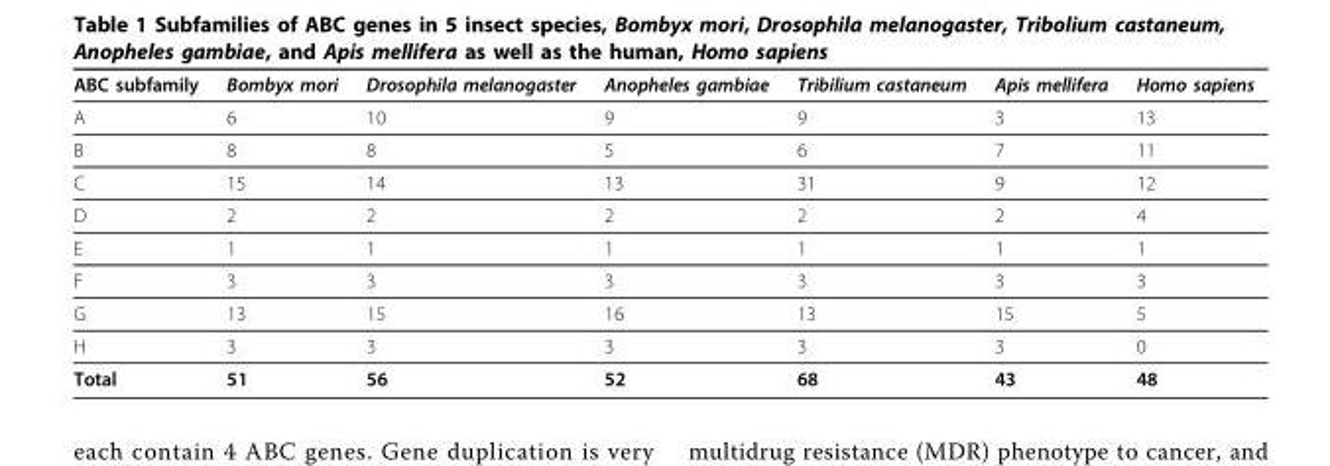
<table><thead><tr><td>ABC subfamily</td><td>Bombyx mori</td><td>Drosophila melanogaster</td><td>Anopheles gambiae</td><td>Tribilium castaneum</td><td>Apis mellifera</td><td>Homo sapiens</td></tr></thead><tbody><tr><td>A</td><td>6</td><td>10</td><td>9</td><td>9</td><td>3</td><td>13</td></tr><tr><td>B</td><td>8</td><td>8</td><td>5</td><td>6</td><td>7</td><td>11</td></tr><tr><td>C</td><td>15</td><td>14</td><td>13</td><td>31</td><td>9</td><td>12</td></tr><tr><td>D</td><td>2</td><td>2</td><td>2</td><td>2</td><td>2</td><td>4</td></tr><tr><td>E</td><td>1</td><td>1</td><td>1</td><td>1</td><td>1</td><td>1</td></tr><tr><td>F</td><td>3</td><td>3</td><td>3</td><td>3</td><td>3</td><td>3</td></tr><tr><td>G</td><td>13</td><td>15</td><td>16</td><td>13</td><td>15</td><td>5</td></tr><tr><td>H</td><td>3</td><td>3</td><td>3</td><td>3</td><td>3</td><td>0</td></tr><tr><td>Total</td><td>51</td><td>56</td><td>52</td><td>68</td><td>43</td><td>48</td></tr></tbody></table>